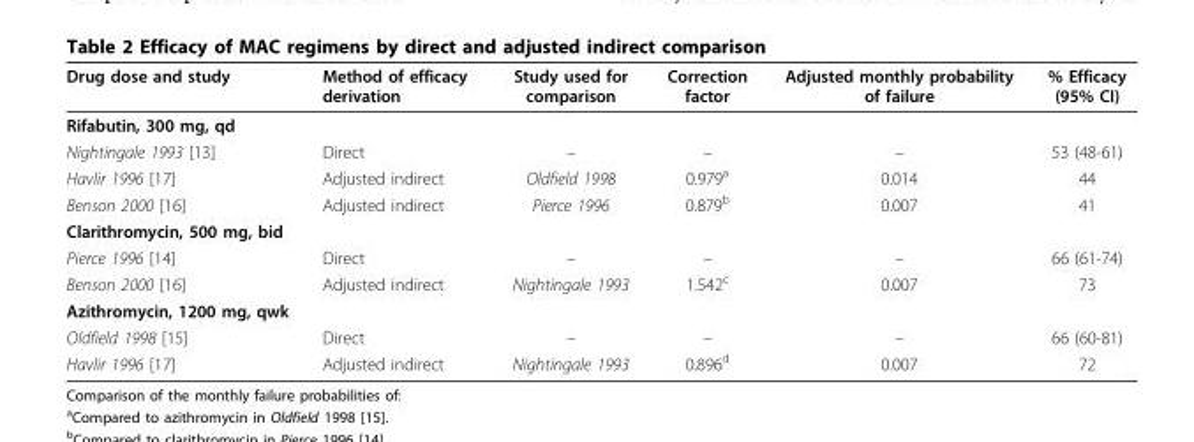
<table><thead><tr><td>Drug dose and study</td><td>Method of efficacy derivation</td><td>Study used for comparison</td><td>Correction factor</td><td>Adjusted monthly probability of failure</td><td>% Efficacy (95% CI)</td></tr></thead><tbody><tr><td colspan="6">Rifabutin, 300 mg, qd</td></tr><tr><td>Nightingale 1993 [13]</td><td>Direct</td><td>–</td><td>–</td><td>–</td><td>53 (48-61)</td></tr><tr><td>Havlir 1996 [17]</td><td>Adjusted indirect</td><td>Oldfield 1998</td><td>0.979<sup>a</sup></td><td>0.014</td><td>44</td></tr><tr><td>Benson 2000 [16]</td><td>Adjusted indirect</td><td>Pierce 1996</td><td>0.879<sup>b</sup></td><td>0.007</td><td>41</td></tr><tr><td colspan="6">Clarithromycin, 500 mg, bid</td></tr><tr><td>Pierce 1996 [14]</td><td>Direct</td><td>–</td><td>–</td><td>–</td><td>66 (61-74)</td></tr><tr><td>Benson 2000 [16]</td><td>Adjusted indirect</td><td>Nightingale 1993</td><td>1.542<sup>c</sup></td><td>0.007</td><td>73</td></tr><tr><td colspan="6">Azithromycin, 1200 mg, qwk</td></tr><tr><td>Oldfield 1998 [15]</td><td>Direct</td><td>–</td><td>–</td><td>–</td><td>66 (60-81)</td></tr><tr><td>Havlir 1996 [17]</td><td>Adjusted indirect</td><td>Nightingale 1993</td><td>0.896<sup>d</sup></td><td>0.007</td><td>72</td></tr></tbody></table>